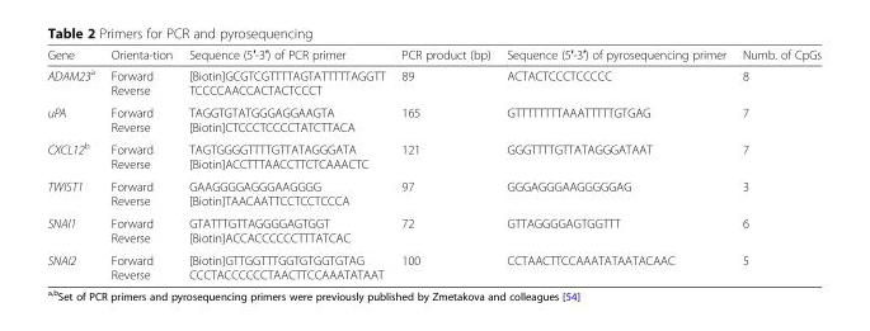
<table><thead><tr><td>Gene</td><td>Orienta-tion</td><td>Sequence (5′-3′) of PCR primer</td><td>PCR product (bp)</td><td>Sequence (5′-3′) of pyrosequencing primer</td><td>Numb. of CpGs</td></tr></thead><tbody><tr><td>ADAM23<sup>a</sup></td><td>Forward Reverse</td><td>[Biotin]GCGTCGTTTTAGTATTTTTAGGTT TCCCCAACCACTACTCCCT</td><td>89</td><td>ACTACTCCCTCCCCC</td><td>8</td></tr><tr><td>uPA</td><td>Forward Reverse</td><td>TAGGTGTATGGGAGGAAGTA [Biotin]CTCCCTCCCCTATCTTACA</td><td>165</td><td>GTTTTTTTTAAATTTTTGTGAG</td><td>7</td></tr><tr><td>CXCL12<sup>b</sup></td><td>Forward Reverse</td><td>TAGTGGGGTTTTGTTATAGGGATA [Biotin]ACCTTTAACCTTCTCAAACTC</td><td>121</td><td>GGGTTTTGTTATAGGGATAAT</td><td>7</td></tr><tr><td>TWIST1</td><td>Forward Reverse</td><td>GAAGGGGAGGGAAGGGG [Biotin]TAACAATTCCTCCTCCCA</td><td>97</td><td>GGGAGGGAAGGGGGAG</td><td>3</td></tr><tr><td>SNAI1</td><td>Forward Reverse</td><td>GTATTTGTTAGGGGAGTGGT [Biotin]ACCACCCCCCTTTATCAC</td><td>72</td><td>GTTAGGGGAGTGGTTT</td><td>6</td></tr><tr><td>SNAI2</td><td>Forward Reverse</td><td>[Biotin]GTTGGTTTGGTGTGGTGTAG CCCTACCCCCCTAACTTCCAAATATAAT</td><td>100</td><td>CCTAACTTCCAAATATAATACAAC</td><td>5</td></tr></tbody></table>